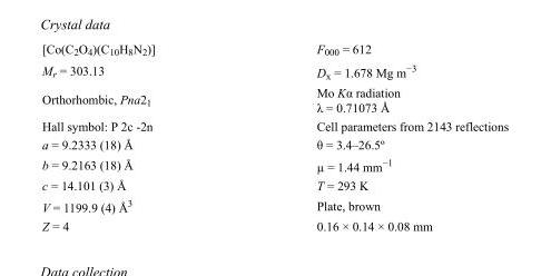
<table><tbody><tr><td>[Co(C<sub>2</sub>O<sub>4</sub>)(C<sub>10</sub>H<sub>8</sub>N<sub>2</sub>)]</td><td>F000 = 612</td></tr><tr><td>M<sub>r</sub> = 303.13</td><td>D<sub>x</sub> = 1.678 Mg m<sup>−3</sup></td></tr><tr><td>Orthorhombic, Pna2<sub>1</sub></td><td>Mo Kα radiation λ = 0.71073 Å</td></tr><tr><td>Hall symbol: P 2c -2n</td><td>Cell parameters from 2143 reflections</td></tr><tr><td>a = 9.2333 (18) Å</td><td>θ = 3.4–26.5º</td></tr><tr><td>b = 9.2163 (18) Å</td><td>µ = 1.44 mm<sup>−1</sup></td></tr><tr><td>c = 14.101 (3) Å</td><td>T = 293 K</td></tr><tr><td>V = 1199.9 (4) Å<sup>3</sup></td><td>Plate, brown</td></tr><tr><td>Z = 4</td><td>0.16 × 0.14 × 0.08 mm</td></tr></tbody></table>